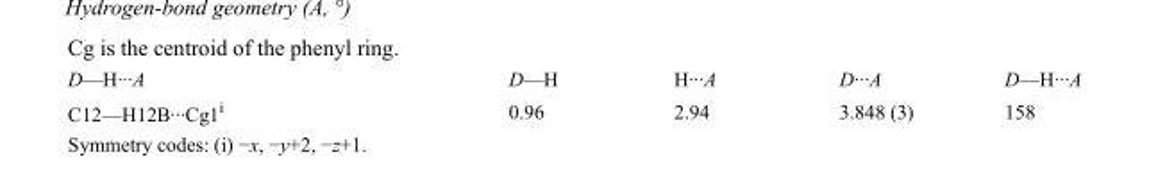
<table><tbody><tr><td>D—H···A</td><td>D—H</td><td>H···A</td><td>D···A</td><td>D—H···A</td></tr><tr><td>C12—H12B···Cg1<sup>i</sup></td><td>0.96</td><td>2.94</td><td>3.848 (3)</td><td>158</td></tr></tbody></table>